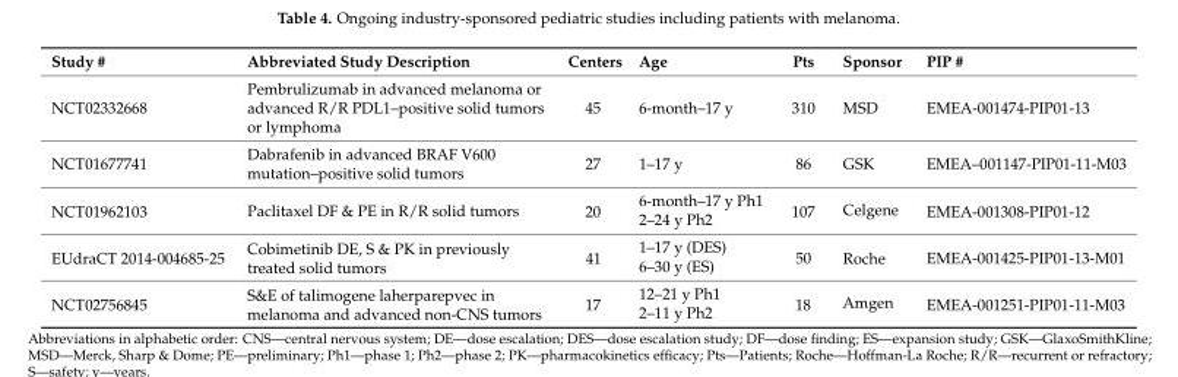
<table><thead><tr><td>Study #</td><td>Abbreviated Study Description</td><td>Centers</td><td>Age</td><td>Pts</td><td>Sponsor</td><td>PIP #</td></tr></thead><tbody><tr><td>NCT02332668</td><td>Pembrulizumab in advanced melanoma or advanced R/R PDL1–positive solid tumors or lymphoma</td><td>45</td><td>6-month–17 y</td><td>310</td><td>MSD</td><td>EMEA-001474-PIP01-13</td></tr><tr><td>NCT01677741</td><td>Dabrafenib in advanced BRAF V600 mutation–positive solid tumors</td><td>27</td><td>1–17 y</td><td>86</td><td>GSK</td><td>EMEA–001147-PIP01-11-M03</td></tr><tr><td rowspan="2">NCT01962103</td><td rowspan="2">Paclitaxel DF &amp; PE in R/R solid tumors</td><td rowspan="2">20</td><td>6-month–17 y Ph1</td><td rowspan="2">107</td><td rowspan="2">Celgene</td><td rowspan="2">EMEA-001308-PIP01-12</td></tr><tr><td>2–24 y Ph2</td></tr><tr><td rowspan="2">EUdraCT 2014-004685-25</td><td rowspan="2">Cobimetinib DE, S &amp; PK in previously treated solid tumors</td><td rowspan="2">41</td><td>1–17 y (DES)</td><td rowspan="2">50</td><td rowspan="2">Roche</td><td rowspan="2">EMEA-001425-PIP01-13-M01</td></tr><tr><td>6–30 y (ES)</td></tr><tr><td rowspan="2">NCT02756845</td><td rowspan="2">S&amp;E of talimogene laherparepvec in melanoma and advanced non-CNS tumors</td><td rowspan="2">17</td><td>12–21 y Ph1</td><td rowspan="2">18</td><td rowspan="2">Amgen</td><td rowspan="2">EMEA-001251-PIP01-11-M03</td></tr><tr><td>2–11 y Ph2</td></tr></tbody></table>